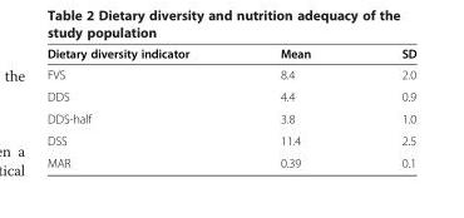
<table><thead><tr><td>Dietary diversity indicator</td><td>Mean</td><td>SD</td></tr></thead><tbody><tr><td>FVS</td><td>8.4</td><td>2.0</td></tr><tr><td>DDS</td><td>4.4</td><td>0.9</td></tr><tr><td>DDS-half</td><td>3.8</td><td>1.0</td></tr><tr><td>DSS</td><td>11.4</td><td>2.5</td></tr><tr><td>MAR</td><td>0.39</td><td>0.1</td></tr></tbody></table>